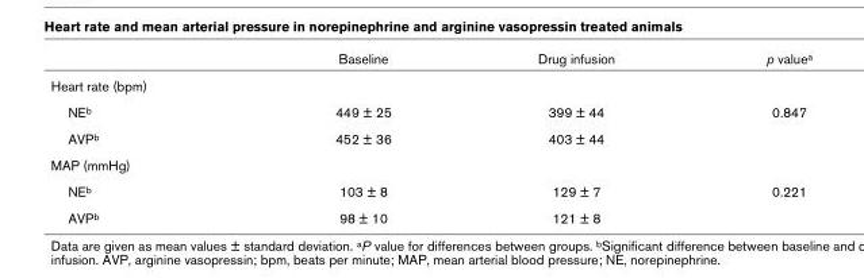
<table><thead><tr><td></td><td>Baseline</td><td>Drug infusion</td><td>p valuea</td></tr></thead><tbody><tr><td colspan="4">Heart rate (bpm)</td></tr><tr><td>NEb</td><td>449 ± 25</td><td>399 ± 44</td><td>0.847</td></tr><tr><td>AVPb</td><td>452 ± 36</td><td>403 ± 44</td><td></td></tr><tr><td colspan="4">MAP (mmHg)</td></tr><tr><td>NEb</td><td>103 ± 8</td><td>129 ± 7</td><td>0.221</td></tr><tr><td>AVPb</td><td>98 ± 10</td><td>121 ± 8</td><td></td></tr></tbody></table>